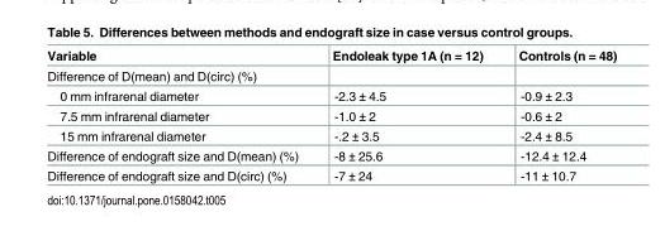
<table><thead><tr><td>Variable</td><td>Endoleak type 1A (n = 12)</td><td>Controls (n = 48)</td></tr></thead><tbody><tr><td colspan="3">Difference of D(mean) and D(circ) (%)</td></tr><tr><td>0 mm infrarenal diameter</td><td>-2.3 ± 4.5</td><td>-0.9 ± 2.3</td></tr><tr><td>7.5 mm infrarenal diameter</td><td>-1.0 ± 2</td><td>-0.6 ± 2</td></tr><tr><td>15 mm infrarenal diameter</td><td>-.2 ± 3.5</td><td>-2.4 ± 8.5</td></tr><tr><td>Difference of endograft size and D(mean) (%)</td><td>-8 ± 25.6</td><td>-12.4 ± 12.4</td></tr><tr><td>Difference of endograft size and D(circ) (%)</td><td>-7 ± 24</td><td>-11 ± 10.7</td></tr></tbody></table>